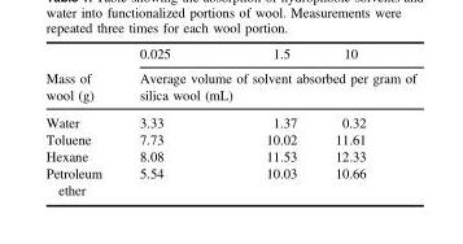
<table><thead><tr><td rowspan="2">Mass of wool (g)</td><td>0.025</td><td>1.5</td><td>10</td></tr><tr><td colspan="3">Average volume of solvent absorbed per gram of silica wool (mL)</td></tr></thead><tbody><tr><td>Water</td><td>3.33</td><td>1.37</td><td>0.32</td></tr><tr><td>Toluene</td><td>7.73</td><td>10.02</td><td>11.61</td></tr><tr><td>Hexane</td><td>8.08</td><td>11.53</td><td>12.33</td></tr><tr><td>Petroleum ether</td><td>5.54</td><td>10.03</td><td>10.66</td></tr></tbody></table>